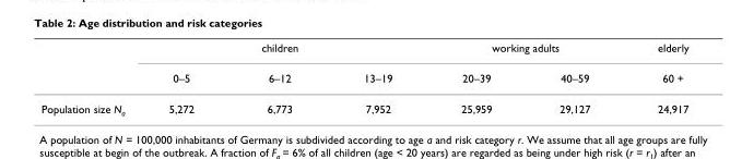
<table><thead><tr><td rowspan="2"></td><td colspan="3">children</td><td colspan="2">working adults</td><td rowspan="2">elderly 60 +</td></tr><tr><td>0–5</td><td>6–12</td><td>13–19</td><td>20–39</td><td>40–59</td></tr></thead><tbody><tr><td>Population size N<sub>a</sub></td><td>5,272</td><td>6,773</td><td>7,952</td><td>25,959</td><td>29,127</td><td>24,917</td></tr></tbody></table>